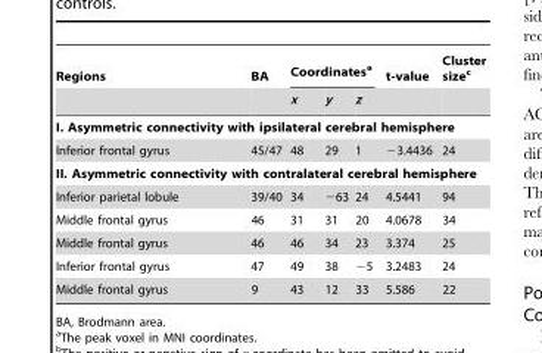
<table><thead><tr><td rowspan="2">Regions</td><td rowspan="2">BA</td><td colspan="3">Coordinates<sup>a</sup></td><td rowspan="2">t-value</td><td rowspan="2">Cluster size<sup>c</sup></td></tr><tr><td>x</td><td>y</td><td>z</td></tr></thead><tbody><tr><td colspan="7">I. Asymmetric connectivity with ipsilateral cerebral hemisphere</td></tr><tr><td>Inferior frontal gyrus</td><td>45/47</td><td>48</td><td>29</td><td>1</td><td>−3.4436</td><td>24</td></tr><tr><td colspan="7">II. Asymmetric connectivity with contralateral cerebral hemisphere</td></tr><tr><td>Inferior parietal lobule</td><td>39/40</td><td>34</td><td>−63</td><td>24</td><td>4.5441</td><td>94</td></tr><tr><td>Middle frontal gyrus</td><td>46</td><td>31</td><td>31</td><td>20</td><td>4.0678</td><td>34</td></tr><tr><td>Middle frontal gyrus</td><td>46</td><td>46</td><td>34</td><td>23</td><td>3.374</td><td>25</td></tr><tr><td>Inferior frontal gyrus</td><td>47</td><td>49</td><td>38</td><td>−5</td><td>3.2483</td><td>24</td></tr><tr><td>Middle frontal gyrus</td><td>9</td><td>43</td><td>12</td><td>33</td><td>5.586</td><td>22</td></tr></tbody></table>